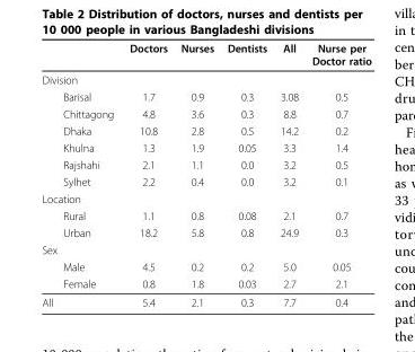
<table><thead><tr><td></td><td>Doctors</td><td>Nurses</td><td>Dentists</td><td>All</td><td>Nurse per Doctor ratio</td></tr></thead><tbody><tr><td colspan="6">Division</td></tr><tr><td>Barisal</td><td>1.7</td><td>0.9</td><td>0.3</td><td>3.08</td><td>0.5</td></tr><tr><td>Chittagong</td><td>4.8</td><td>3.6</td><td>0.3</td><td>8.8</td><td>0.7</td></tr><tr><td>Dhaka</td><td>10.8</td><td>2.8</td><td>0.5</td><td>14.2</td><td>0.2</td></tr><tr><td>Khulna</td><td>1.3</td><td>1.9</td><td>0.05</td><td>3.3</td><td>1.4</td></tr><tr><td>Rajshahi</td><td>2.1</td><td>1.1</td><td>0.0</td><td>3.2</td><td>0.5</td></tr><tr><td>Sylhet</td><td>2.2</td><td>0.4</td><td>0.0</td><td>3.2</td><td>0.1</td></tr><tr><td colspan="6">Location</td></tr><tr><td>Rural</td><td>1.1</td><td>0.8</td><td>0.08</td><td>2.1</td><td>0.7</td></tr><tr><td>Urban</td><td>18.2</td><td>5.8</td><td>0.8</td><td>24.9</td><td>0.3</td></tr><tr><td colspan="6">Sex</td></tr><tr><td>Male</td><td>4.5</td><td>0.2</td><td>0.2</td><td>5.0</td><td>0.05</td></tr><tr><td>Female</td><td>0.8</td><td>1.8</td><td>0.03</td><td>2.7</td><td>2.1</td></tr><tr><td>All</td><td>5.4</td><td>2.1</td><td>0.3</td><td>7.7</td><td>0.4</td></tr></tbody></table>